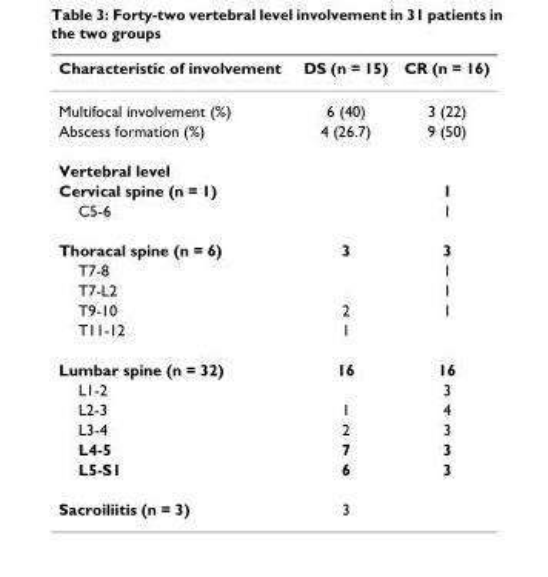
<table><thead><tr><td>Characteristic of involvement</td><td>DS (n = 15)</td><td>CR (n = 16)</td></tr></thead><tbody><tr><td>Multifocal involvement (%)</td><td>6 (40)</td><td>3 (22)</td></tr><tr><td>Abscess formation (%)</td><td>4 (26.7)</td><td>9 (50)</td></tr><tr><td colspan="3">Vertebral level</td></tr><tr><td>Cervical spine (n = 1)</td><td></td><td>1</td></tr><tr><td>C5-6</td><td></td><td>1</td></tr><tr><td>Thoracal spine (n = 6)</td><td>3</td><td>3</td></tr><tr><td>T7-8</td><td></td><td>1</td></tr><tr><td>T7-L2</td><td></td><td>1</td></tr><tr><td>T9-10</td><td>2</td><td>1</td></tr><tr><td>T11-12</td><td>1</td><td></td></tr><tr><td>Lumbar spine (n = 32)</td><td>16</td><td>16</td></tr><tr><td>L1-2</td><td></td><td>3</td></tr><tr><td>L2-3</td><td>1</td><td>4</td></tr><tr><td>L3-4</td><td>2</td><td>3</td></tr><tr><td>L4-5</td><td>7</td><td>3</td></tr><tr><td>L5-S1</td><td>6</td><td>3</td></tr><tr><td>Sacroiliitis (n = 3)</td><td>3</td><td></td></tr></tbody></table>